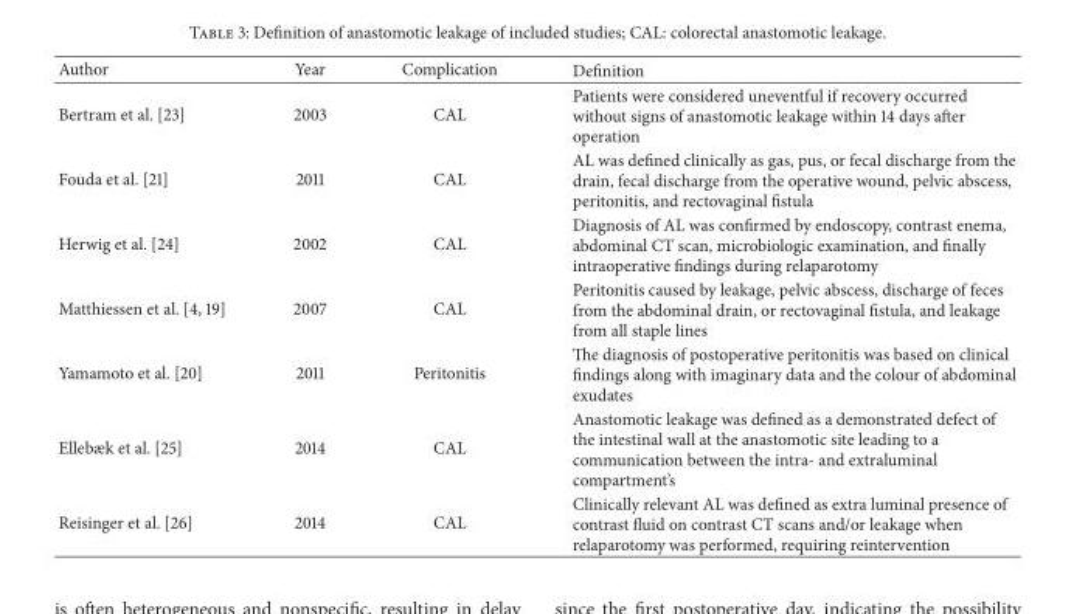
<table><thead><tr><td>Author</td><td>Year</td><td>Complication</td><td>Definition</td></tr></thead><tbody><tr><td>Bertram et al. [23]</td><td>2003</td><td>CAL</td><td>Patients were considered uneventful if recovery occurred without signs of anastomotic leakage within 14 days after operation</td></tr><tr><td>Fouda et al. [21]</td><td>2011</td><td>CAL</td><td>AL was defined clinically as gas, pus, or fecal discharge from the drain, fecal discharge from the operative wound, pelvic abscess, peritonitis, and rectovaginal fistula</td></tr><tr><td>Herwig et al. [24]</td><td>2002</td><td>CAL</td><td>Diagnosis of AL was confirmed by endoscopy, contrast enema, abdominal CT scan, microbiologic examination, and finally intraoperative findings during relaparotomy</td></tr><tr><td>Matthiessen et al. [4, 19]</td><td>2007</td><td>CAL</td><td>Peritonitis caused by leakage, pelvic abscess, discharge of feces from the abdominal drain, or rectovaginal fistula, and leakage from all staple lines</td></tr><tr><td>Yamamoto et al. [20]</td><td>2011</td><td>Peritonitis</td><td>The diagnosis of postoperative peritonitis was based on clinical findings along with imaginary data and the colour of abdominal exudates</td></tr><tr><td>Ellebæk et al. [25]</td><td>2014</td><td>CAL</td><td>Anastomotic leakage was defined as a demonstrated defect of the intestinal wall at the anastomotic site leading to a communication between the intra- and extraluminal compartment’s</td></tr><tr><td>Reisinger et al. [26]</td><td>2014</td><td>CAL</td><td>Clinically relevant AL was defined as extra luminal presence of contrast fluid on contrast CT scans and/or leakage when relaparotomy was performed, requiring reintervention</td></tr></tbody></table>